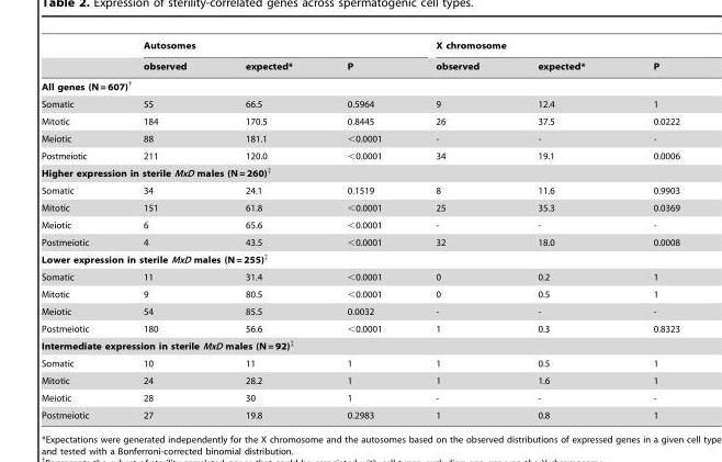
<table><thead><tr><td rowspan="2"></td><td colspan="3">Autosomes</td><td colspan="3">X chromosome</td></tr><tr><td>observed</td><td>expected*</td><td>P</td><td>observed</td><td>expected*</td><td>P</td></tr></thead><tbody><tr><td colspan="7">All genes (N = 607)†</td></tr><tr><td>Somatic</td><td>55</td><td>66.5</td><td>0.5964</td><td>9</td><td>12.4</td><td>1</td></tr><tr><td>Mitotic</td><td>184</td><td>170.5</td><td>0.8445</td><td>26</td><td>37.5</td><td>0.0222</td></tr><tr><td>Meiotic</td><td>88</td><td>181.1</td><td>&lt;0.0001</td><td>-</td><td>-</td><td>-</td></tr><tr><td>Postmeiotic</td><td>211</td><td>120.0</td><td>&lt;0.0001</td><td>34</td><td>19.1</td><td>0.0006</td></tr><tr><td colspan="7">Higher expression in sterile MxD males (N = 260)‡</td></tr><tr><td>Somatic</td><td>34</td><td>24.1</td><td>0.1519</td><td>8</td><td>11.6</td><td>0.9903</td></tr><tr><td>Mitotic</td><td>151</td><td>61.8</td><td>&lt;0.0001</td><td>25</td><td>35.3</td><td>0.0369</td></tr><tr><td>Meiotic</td><td>6</td><td>65.6</td><td>&lt;0.0001</td><td>-</td><td>-</td><td>-</td></tr><tr><td>Postmeiotic</td><td>4</td><td>43.5</td><td>&lt;0.0001</td><td>32</td><td>18.0</td><td>0.0008</td></tr><tr><td colspan="7">Lower expression in sterile MxD males (N = 255)‡</td></tr><tr><td>Somatic</td><td>11</td><td>31.4</td><td>&lt;0.0001</td><td>0</td><td>0.2</td><td>1</td></tr><tr><td>Mitotic</td><td>9</td><td>80.5</td><td>&lt;0.0001</td><td>0</td><td>0.5</td><td>1</td></tr><tr><td>Meiotic</td><td>54</td><td>85.5</td><td>0.0032</td><td>-</td><td>-</td><td>-</td></tr><tr><td>Postmeiotic</td><td>180</td><td>56.6</td><td>&lt;0.0001</td><td>1</td><td>0.3</td><td>0.8323</td></tr><tr><td colspan="7">Intermediate expression in sterile MxD males (N = 92)‡</td></tr><tr><td>Somatic</td><td>10</td><td>11</td><td>1</td><td>1</td><td>0.5</td><td>1</td></tr><tr><td>Mitotic</td><td>24</td><td>28.2</td><td>1</td><td>1</td><td>1.6</td><td>1</td></tr><tr><td>Meiotic</td><td>28</td><td>30</td><td>1</td><td>-</td><td>-</td><td>-</td></tr><tr><td>Postmeiotic</td><td>27</td><td>19.8</td><td>0.2983</td><td>1</td><td>0.8</td><td>1</td></tr></tbody></table>